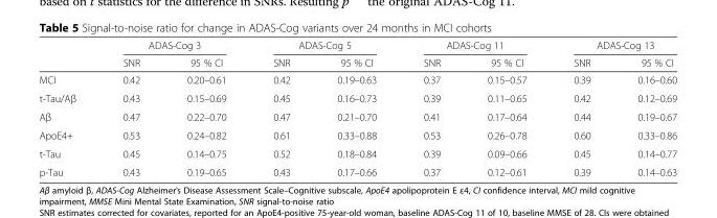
<table><thead><tr><td rowspan="2"></td><td colspan="2">ADAS-Cog 3</td><td colspan="2">ADAS-Cog 5</td><td colspan="2">ADAS-Cog 11</td><td colspan="2">ADAS-Cog 13</td></tr><tr><td>SNR</td><td>95 % CI</td><td>SNR</td><td>95 % CI</td><td>SNR</td><td>95 % CI</td><td>SNR</td><td>95 % CI</td></tr></thead><tbody><tr><td>MCI</td><td>0.42</td><td>0.20–0.61</td><td>0.42</td><td>0.19–0.63</td><td>0.37</td><td>0.15–0.57</td><td>0.39</td><td>0.16–0.60</td></tr><tr><td>t-Tau/Aβ</td><td>0.43</td><td>0.15–0.69</td><td>0.45</td><td>0.16–0.73</td><td>0.39</td><td>0.11–0.65</td><td>0.42</td><td>0.12–0.69</td></tr><tr><td>Aβ</td><td>0.47</td><td>0.22–0.70</td><td>0.47</td><td>0.21–0.70</td><td>0.41</td><td>0.17–0.64</td><td>0.44</td><td>0.19–0.67</td></tr><tr><td>ApoE4+</td><td>0.53</td><td>0.24–0.82</td><td>0.61</td><td>0.33–0.88</td><td>0.53</td><td>0.26–0.78</td><td>0.60</td><td>0.33–0.86</td></tr><tr><td>t-Tau</td><td>0.45</td><td>0.14–0.75</td><td>0.52</td><td>0.18–0.84</td><td>0.39</td><td>0.09–0.66</td><td>0.45</td><td>0.14–0.77</td></tr><tr><td>p-Tau</td><td>0.43</td><td>0.19–0.65</td><td>0.43</td><td>0.17–0.66</td><td>0.37</td><td>0.12–0.61</td><td>0.39</td><td>0.14–0.63</td></tr></tbody></table>